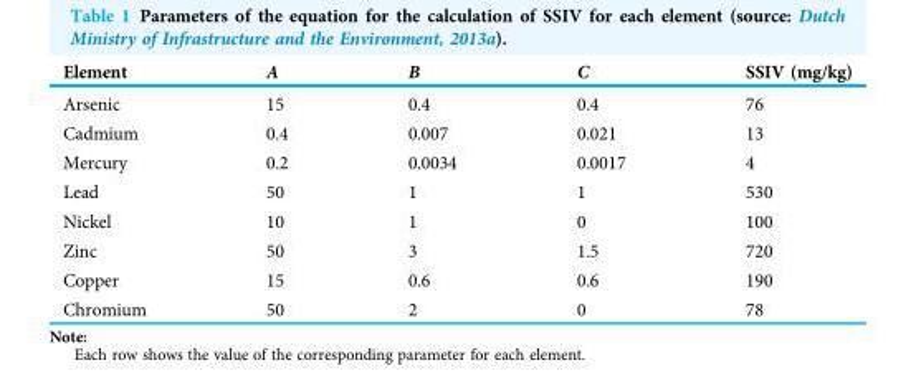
<table><thead><tr><td>Element</td><td>A</td><td>B</td><td>C</td><td>SSIV (mg/kg)</td></tr></thead><tbody><tr><td>Arsenic</td><td>15</td><td>0.4</td><td>0.4</td><td>76</td></tr><tr><td>Cadmium</td><td>0.4</td><td>0.007</td><td>0.021</td><td>13</td></tr><tr><td>Mercury</td><td>0.2</td><td>0.0034</td><td>0.0017</td><td>4</td></tr><tr><td>Lead</td><td>50</td><td>1</td><td>1</td><td>530</td></tr><tr><td>Nickel</td><td>10</td><td>1</td><td>0</td><td>100</td></tr><tr><td>Zinc</td><td>50</td><td>3</td><td>1.5</td><td>720</td></tr><tr><td>Copper</td><td>15</td><td>0.6</td><td>0.6</td><td>190</td></tr><tr><td>Chromium</td><td>50</td><td>2</td><td>0</td><td>78</td></tr></tbody></table>